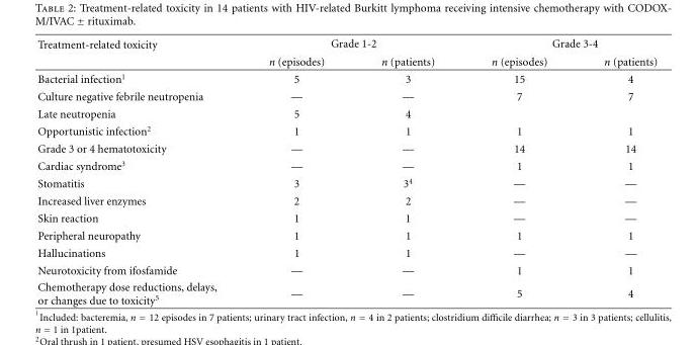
<table><thead><tr><td rowspan="2">Treatment-related toxicity</td><td colspan="2">Grade 1-2</td><td colspan="2">Grade 3-4</td></tr><tr><td>n (episodes)</td><td>n (patients)</td><td>n (episodes)</td><td>n (patients)</td></tr></thead><tbody><tr><td>Bacterial infection<sup>1</sup></td><td>5</td><td>3</td><td>15</td><td>4</td></tr><tr><td>Culture negative febrile neutropenia</td><td>—</td><td>—</td><td>7</td><td>7</td></tr><tr><td>Late neutropenia</td><td>5</td><td>4</td><td></td><td></td></tr><tr><td>Opportunistic infection<sup>2</sup></td><td>1</td><td>1</td><td>1</td><td>1</td></tr><tr><td>Grade 3 or 4 hematotoxicity</td><td>—</td><td>—</td><td>14</td><td>14</td></tr><tr><td>Cardiac syndrome<sup>3</sup></td><td>—</td><td>—</td><td>1</td><td>1</td></tr><tr><td>Stomatitis</td><td>3</td><td>3<sup>4</sup></td><td>—</td><td>—</td></tr><tr><td>Increased liver enzymes</td><td>2</td><td>2</td><td>—</td><td>—</td></tr><tr><td>Skin reaction</td><td>1</td><td>1</td><td>—</td><td>—</td></tr><tr><td>Peripheral neuropathy</td><td>1</td><td>1</td><td>1</td><td>1</td></tr><tr><td>Hallucinations</td><td>1</td><td>1</td><td>—</td><td>—</td></tr><tr><td>Neurotoxicity from ifosfamide</td><td>—</td><td>—</td><td>1</td><td>1</td></tr><tr><td>Chemotherapy dose reductions, delays, or changes due to toxicity<sup>5</sup></td><td>—</td><td>—</td><td>5</td><td>4</td></tr></tbody></table>